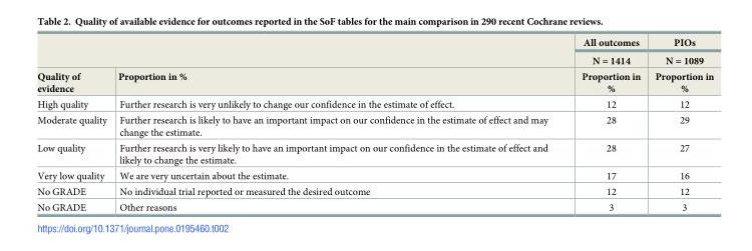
<table><thead><tr><td rowspan="3">Quality of evidence</td><td rowspan="3">Proportion in %</td><td rowspan="3">All outcomes N = 1414 Proportion in %</td><td rowspan="3">PIOs N = 1089 Proportion in %</td></tr><tr></tr><tr></tr></thead><tbody><tr><td>High quality</td><td>Further research is very unlikely to change our confidence in the estimate of effect.</td><td>12</td><td>12</td></tr><tr><td>Moderate quality</td><td>Further research is likely to have an important impact on our confidence in the estimate of effect and may change the estimate.</td><td>28</td><td>29</td></tr><tr><td>Low quality</td><td>Further research is very likely to have an important impact on our confidence in the estimate of effect and likely to change the estimate.</td><td>28</td><td>27</td></tr><tr><td>Very low quality</td><td>We are very uncertain about the estimate.</td><td>17</td><td>16</td></tr><tr><td>No GRADE</td><td>No individual trial reported or measured the desired outcome</td><td>12</td><td>12</td></tr><tr><td>No GRADE</td><td>Other reasons</td><td>3</td><td>3</td></tr></tbody></table>